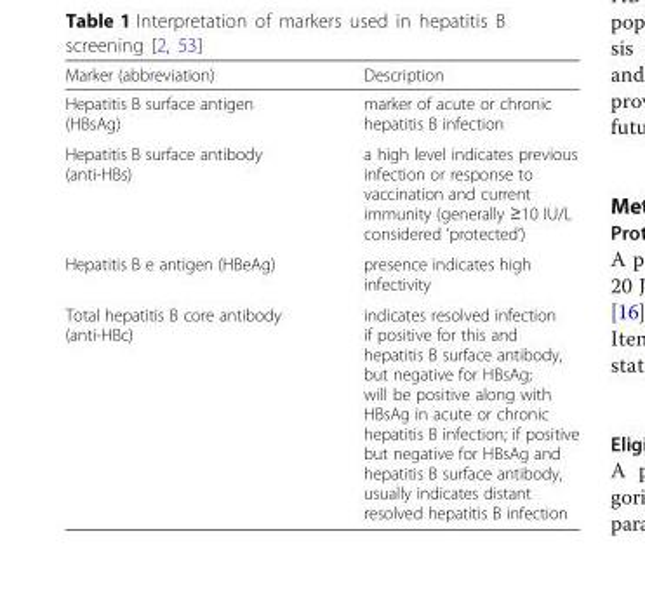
<table><thead><tr><td>Marker (abbreviation)</td><td>Description</td></tr></thead><tbody><tr><td>Hepatitis B surface antigen (HBsAg)</td><td>marker of acute or chronic hepatitis B infection</td></tr><tr><td>Hepatitis B surface antibody (anti-HBs)</td><td>a high level indicates previous infection or response to vaccination and current immunity (generally ≥10 IU/L considered ‘protected’)</td></tr><tr><td>Hepatitis B e antigen (HBeAg)</td><td>presence indicates high infectivity</td></tr><tr><td>Total hepatitis B core antibody (anti-HBc)</td><td>indicates resolved infection if positive for this and hepatitis B surface antibody, but negative for HBsAg; will be positive along with HBsAg in acute or chronic hepatitis B infection; if positive but negative for HBsAg and hepatitis B surface antibody, usually indicates distant resolved hepatitis B infection</td></tr></tbody></table>